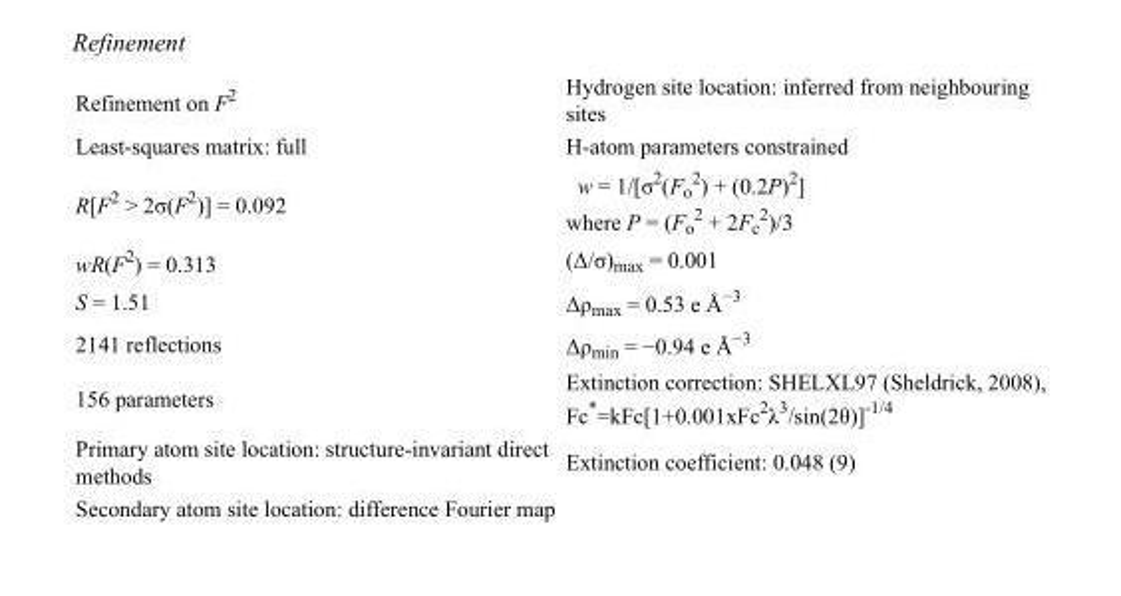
<table><tbody><tr><td>Refinement on F<sup>2</sup></td><td>Hydrogen site location: inferred from neighbouring sites</td></tr><tr><td>Least-squares matrix: full</td><td>H-atom parameters constrained</td></tr><tr><td>R[F<sup>2</sup> &gt; 2σ(F<sup>2</sup>)] = 0.092</td><td>w = 1/[σ<sup>2</sup>(F<sub>o</sub> <sup>2</sup>) + (0.2P)<sup>2</sup>] where P = (F<sub>o</sub> <sup>2</sup> + 2F<sub>c</sub> <sup>2</sup>)/3</td></tr><tr><td>wR(F<sup>2</sup>) = 0.313</td><td>(Δ/σ)<sub>max</sub> = 0.001</td></tr><tr><td>S = 1.51</td><td>Δρ<sub>max</sub> = 0.53 e Å<sup>−3</sup></td></tr><tr><td>2141 reflections</td><td>Δρ<sub>min</sub> = −0.94 e Å<sup>−3</sup></td></tr><tr><td>156 parameters</td><td>Extinction correction: SHELXL97 (Sheldrick, 2008), Fc*=kFc[1+0.001xFc<sup>2</sup>λ<sup>3</sup>/sin(2θ)]<sup>-1/4</sup></td></tr><tr><td>Primary atom site location: structure-invariant direct methods</td><td>Extinction coefficient: 0.048 (9)</td></tr><tr><td>Secondary atom site location: difference Fourier map</td><td></td></tr></tbody></table>